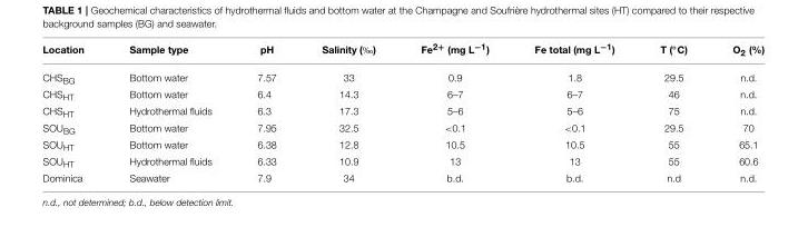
<table><thead><tr><td>Location</td><td>Sample type</td><td>pH</td><td>Salinity (‰)</td><td>Fe<sup>2+</sup> (mg L<sup>−1</sup>)</td><td>Fe total (mg L<sup>−1</sup>)</td><td>T (◦C)</td><td>O<sub>2</sub> (%)</td></tr></thead><tbody><tr><td>CHS<sub>BG</sub></td><td>Bottom water</td><td>7.57</td><td>33</td><td>0.9</td><td>1.8</td><td>29.5</td><td>n.d.</td></tr><tr><td>CHS<sub>HT</sub></td><td>Bottom water</td><td>6.4</td><td>14.3</td><td>6–7</td><td>6–7</td><td>46</td><td>n.d.</td></tr><tr><td>CHS<sub>HT</sub></td><td>Hydrothermal fluids</td><td>6.3</td><td>17.3</td><td>5–6</td><td>5–6</td><td>75</td><td>n.d.</td></tr><tr><td>SOU<sub>BG</sub></td><td>Bottom water</td><td>7.95</td><td>32.5</td><td>&lt;0.1</td><td>&lt;0.1</td><td>29.5</td><td>70</td></tr><tr><td>SOU<sub>HT</sub></td><td>Bottom water</td><td>6.38</td><td>12.8</td><td>10.5</td><td>10.5</td><td>55</td><td>65.1</td></tr><tr><td>SOU<sub>HT</sub></td><td>Hydrothermal fluids</td><td>6.33</td><td>10.9</td><td>13</td><td>13</td><td>55</td><td>60.6</td></tr><tr><td>Dominica</td><td>Seawater</td><td>7.9</td><td>34</td><td>b.d.</td><td>b.d.</td><td>n.d</td><td>n.d.</td></tr></tbody></table>